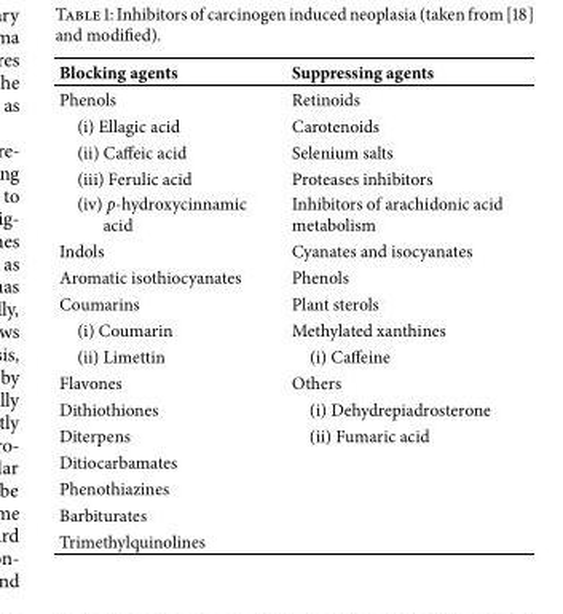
<table><thead><tr><td>Blocking agents</td><td>Suppressing agents</td></tr></thead><tbody><tr><td>Phenols</td><td>Retinoids</td></tr><tr><td>(i) Ellagic acid</td><td>Carotenoids</td></tr><tr><td>(ii) Caffeic acid</td><td>Selenium salts</td></tr><tr><td>(iii) Ferulic acid</td><td>Proteases inhibitors</td></tr><tr><td>(iv) p-hydroxycinnamic acid</td><td>Inhibitors of arachidonic acid metabolism</td></tr><tr><td>Indols</td><td>Cyanates and isocyanates</td></tr><tr><td>Aromatic isothiocyanates</td><td>Phenols</td></tr><tr><td>Coumarins</td><td>Plant sterols</td></tr><tr><td>(i) Coumarin</td><td>Methylated xanthines</td></tr><tr><td>(ii) Limettin</td><td>(i) Caffeine</td></tr><tr><td>Flavones</td><td>Others</td></tr><tr><td>Dithiothiones</td><td>(i) Dehydrepiadrosterone</td></tr><tr><td>Diterpens</td><td>(ii) Fumaric acid</td></tr><tr><td colspan="2">Ditiocarbamates</td></tr><tr><td colspan="2">Phenothiazines</td></tr><tr><td colspan="2">Barbiturates</td></tr><tr><td>Trimethylquinolines</td><td></td></tr></tbody></table>